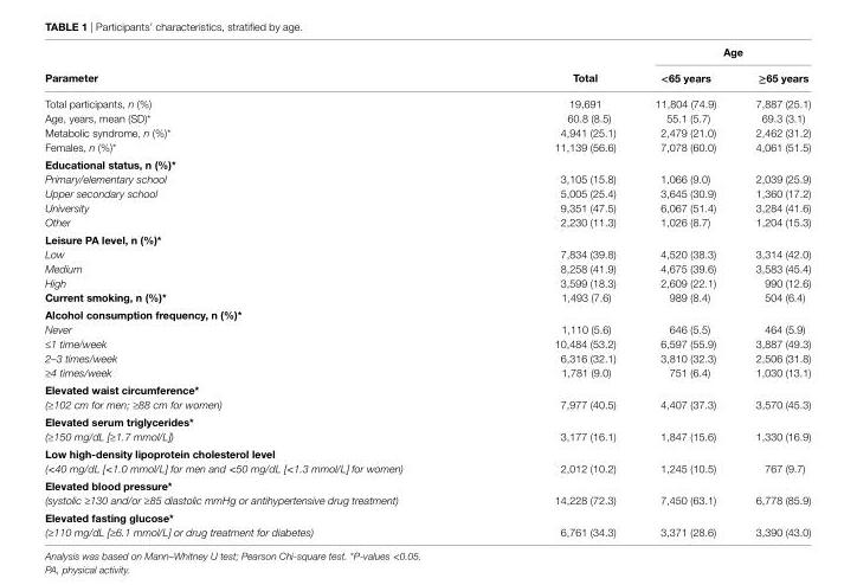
<table><thead><tr><td rowspan="2">Parameter</td><td rowspan="2">Total</td><td colspan="2">age</td></tr><tr><td>&lt;65 years</td><td>≥65 years</td></tr></thead><tbody><tr><td>Total participants, n (%)</td><td>19,691</td><td>11,804 (74.9)</td><td>7,887 (25.1)</td></tr><tr><td>Age, years, mean (SD)*</td><td>60.8 (8.5)</td><td>55.1 (5.7)</td><td>69.3 (3.1)</td></tr><tr><td>Metabolic syndrome, n (%)*</td><td>4,941 (25.1)</td><td>2,479 (21.0)</td><td>2,462 (31.2)</td></tr><tr><td>Females, n (%)*</td><td>11,139 (56.6)</td><td>7,078 (60.0)</td><td>4,061 (51.5)</td></tr><tr><td colspan="4">educational status, n (%)*</td></tr><tr><td>Primary/elementary school</td><td>3,105 (15.8)</td><td>1,066 (9.0)</td><td>2,039 (25.9)</td></tr><tr><td>Upper secondary school</td><td>5,005 (25.4)</td><td>3,645 (30.9)</td><td>1,360 (17.2)</td></tr><tr><td>University</td><td>9,351 (47.5)</td><td>6,067 (51.4)</td><td>3,284 (41.6)</td></tr><tr><td>Other</td><td>2,230 (11.3)</td><td>1,026 (8.7)</td><td>1,204 (15.3)</td></tr><tr><td colspan="4">leisure Pa level, n (%)*</td></tr><tr><td>Low</td><td>7,834 (39.8)</td><td>4,520 (38.3)</td><td>3,314 (42.0)</td></tr><tr><td>Medium</td><td>8,258 (41.9)</td><td>4,675 (39.6)</td><td>3,583 (45.4)</td></tr><tr><td>High</td><td>3,599 (18.3)</td><td>2,609 (22.1)</td><td>990 (12.6)</td></tr><tr><td>current smoking, n (%)*</td><td>1,493 (7.6)</td><td>989 (8.4)</td><td>504 (6.4)</td></tr><tr><td colspan="4">alcohol consumption frequency, n (%)*</td></tr><tr><td>Never</td><td>1,110 (5.6)</td><td>646 (5.5)</td><td>464 (5.9)</td></tr><tr><td>≤1 time/week</td><td>10,484 (53.2)</td><td>6,597 (55.9)</td><td>3,887 (49.3)</td></tr><tr><td>2–3 times/week</td><td>6,316 (32.1)</td><td>3,810 (32.3)</td><td>2,506 (31.8)</td></tr><tr><td>≥4 times/week</td><td>1,781 (9.0)</td><td>751 (6.4)</td><td>1,030 (13.1)</td></tr><tr><td colspan="4">elevated waist circumference*</td></tr><tr><td>(≥102 cm for men; ≥88 cm for women)</td><td>7,977 (40.5)</td><td>4,407 (37.3)</td><td>3,570 (45.3)</td></tr><tr><td colspan="4">elevated serum triglycerides*</td></tr><tr><td>(≥150 mg/dL [≥1.7 mmol/L])</td><td>3,177 (16.1)</td><td>1,847 (15.6)</td><td>1,330 (16.9)</td></tr><tr><td colspan="4">low high-density lipoprotein cholesterol level</td></tr><tr><td>(&lt;40 mg/dL [&lt;1.0 mmol/L] for men and &lt;50 mg/dL [&lt;1.3 mmol/L] for women)</td><td>2,012 (10.2)</td><td>1,245 (10.5)</td><td>767 (9.7)</td></tr><tr><td colspan="4">elevated blood pressure*</td></tr><tr><td>(systolic ≥130 and/or ≥85 diastolic mmHg or antihypertensive drug treatment)</td><td>14,228 (72.3)</td><td>7,450 (63.1)</td><td>6,778 (85.9)</td></tr><tr><td colspan="4">elevated fasting glucose*</td></tr><tr><td>(≥110 mg/dL [≥6.1 mmol/L] or drug treatment for diabetes)</td><td>6,761 (34.3)</td><td>3,371 (28.6)</td><td>3,390 (43.0)</td></tr></tbody></table>